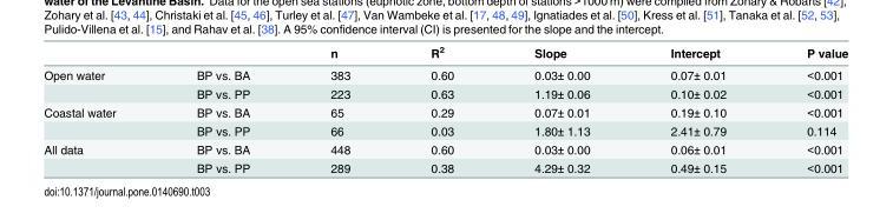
<table><thead><tr><td></td><td></td><td>n</td><td>R<sup>2</sup></td><td>Slope</td><td>Intercept</td><td>P value</td></tr></thead><tbody><tr><td rowspan="2">Open water</td><td>BP vs. BA</td><td>383</td><td>0.60</td><td>0.03± 0.00</td><td>0.07± 0.01</td><td>&lt;0.001</td></tr><tr><td>BP vs. PP</td><td>223</td><td>0.63</td><td>1.19± 0.06</td><td>0.10± 0.02</td><td>&lt;0.001</td></tr><tr><td rowspan="2">Coastal water</td><td>BP vs. BA</td><td>65</td><td>0.29</td><td>0.07± 0.01</td><td>0.19± 0.10</td><td>&lt;0.001</td></tr><tr><td>BP vs. PP</td><td>66</td><td>0.03</td><td>1.80± 1.13</td><td>2.41± 0.79</td><td>0.114</td></tr><tr><td rowspan="2">All data</td><td>BP vs. BA</td><td>448</td><td>0.60</td><td>0.03± 0.00</td><td>0.06± 0.01</td><td>&lt;0.001</td></tr><tr><td>BP vs. PP</td><td>289</td><td>0.38</td><td>4.29± 0.32</td><td>0.49± 0.15</td><td>&lt;0.001</td></tr></tbody></table>